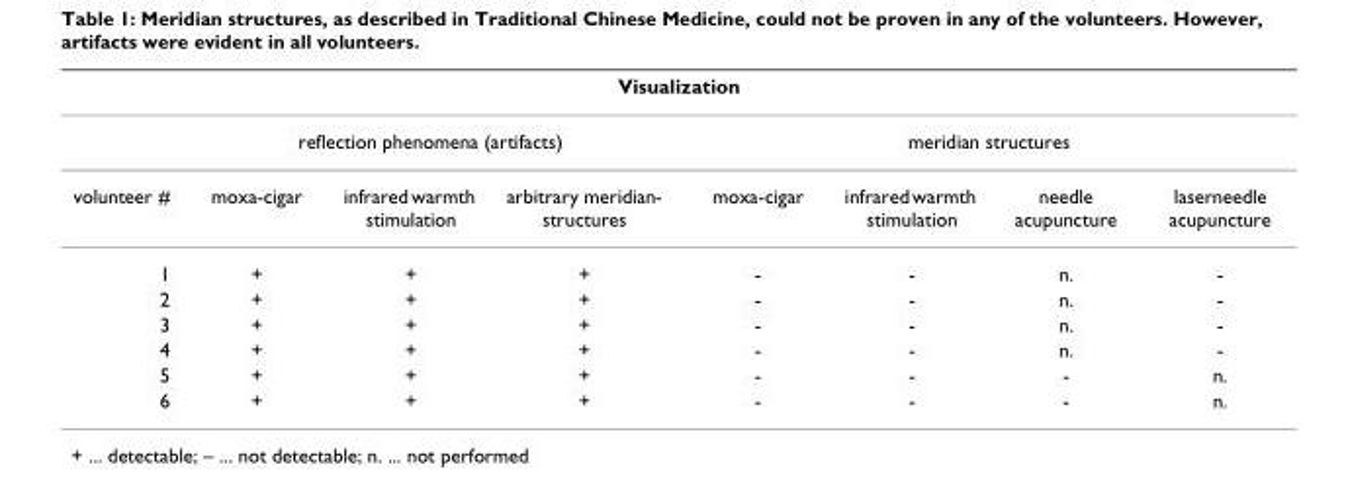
<table><thead><tr><td colspan="8">Visualization</td></tr><tr><td rowspan="2">volunteer #</td><td colspan="3">reflection phenomena (artifacts)</td><td colspan="4">meridian structures</td></tr><tr><td>moxa-cigar</td><td>infrared warmth stimulation</td><td>arbitrary meridian- structures</td><td>moxa-cigar</td><td>infrared warmth stimulation</td><td>needle acupuncture</td><td>laserneedle acupuncture</td></tr></thead><tbody><tr><td>1</td><td>+</td><td>+</td><td>+</td><td>-</td><td>-</td><td>n.</td><td>-</td></tr><tr><td>2</td><td>+</td><td>+</td><td>+</td><td>-</td><td>-</td><td>n.</td><td>-</td></tr><tr><td>3</td><td>+</td><td>+</td><td>+</td><td>-</td><td>-</td><td>n.</td><td>-</td></tr><tr><td>4</td><td>+</td><td>+</td><td>+</td><td>-</td><td>-</td><td>n.</td><td>-</td></tr><tr><td>5</td><td>+</td><td>+</td><td>+</td><td>-</td><td>-</td><td>-</td><td>n.</td></tr><tr><td>6</td><td>+</td><td>+</td><td>+</td><td>-</td><td>-</td><td>-</td><td>n.</td></tr></tbody></table>